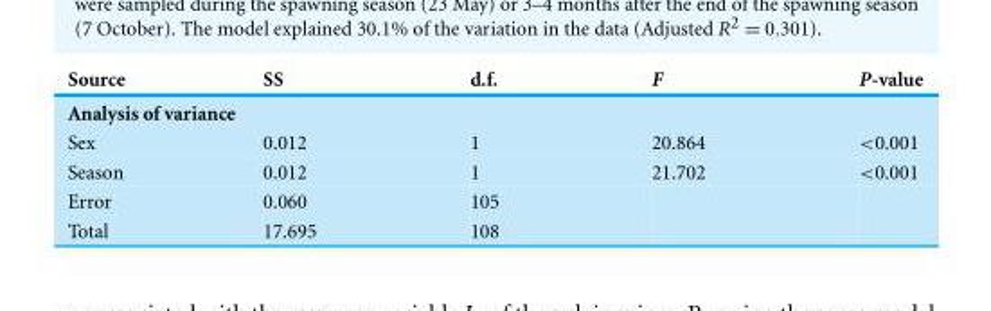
<table><thead><tr><td>Source</td><td>SS</td><td>d.f.</td><td>F</td><td>P-value</td></tr></thead><tbody><tr><td colspan="5">Analysis of variance</td></tr><tr><td>Sex</td><td>0.012</td><td>1</td><td>20.864</td><td>&lt;0.001</td></tr><tr><td>Season</td><td>0.012</td><td>1</td><td>21.702</td><td>&lt;0.001</td></tr><tr><td>Error</td><td>0.060</td><td>105</td><td></td><td></td></tr><tr><td>Total</td><td>17.695</td><td>108</td><td></td><td></td></tr></tbody></table>